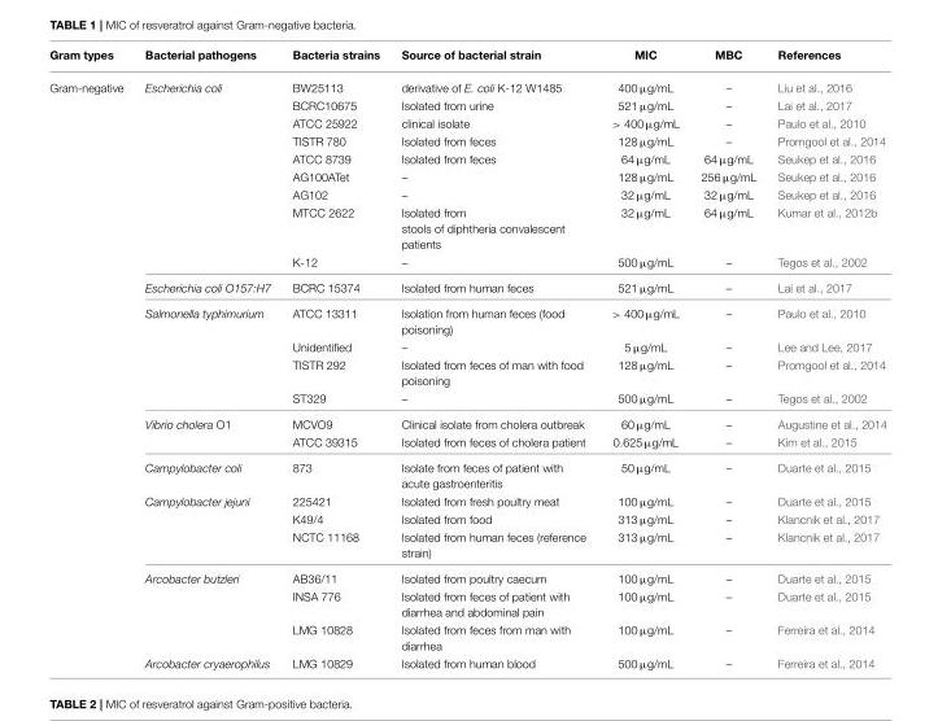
<table><thead><tr><td>Gram types</td><td>Bacterial pathogens</td><td>Bacteria strains</td><td>Source of bacterial strain</td><td>MIC</td><td>MBC</td><td>References</td></tr></thead><tbody><tr><td rowspan="24">Gram-negative</td><td>Escherichia coli</td><td>BW25113</td><td>derivative of E. coli K-12 W1485</td><td>400 µg/mL</td><td>–</td><td>Liu et al., 2016</td></tr><tr><td></td><td>BCRC10675</td><td>Isolated from urine</td><td>521 µg/mL</td><td>–</td><td>Lai et al., 2017</td></tr><tr><td></td><td>ATCC 25922</td><td>clinical isolate</td><td>&gt; 400 µg/mL</td><td>–</td><td>Paulo et al., 2010</td></tr><tr><td></td><td>TISTR 780</td><td>Isolated from feces</td><td>128 µg/mL</td><td>–</td><td>Promgool et al., 2014</td></tr><tr><td></td><td>ATCC 8739</td><td>Isolated from feces</td><td>64 µg/mL</td><td>64 µg/mL</td><td>Seukep et al., 2016</td></tr><tr><td></td><td>AG100ATet</td><td>–</td><td>128 µg/mL</td><td>256 µg/mL</td><td>Seukep et al., 2016</td></tr><tr><td></td><td>AG102</td><td>–</td><td>32 µg/mL</td><td>32 µg/mL</td><td>Seukep et al., 2016</td></tr><tr><td></td><td>MTCC 2622</td><td>Isolated from stools of diphtheria convalescent patients</td><td>32 µg/mL</td><td>64 µg/mL</td><td>Kumar et al., 2012b</td></tr><tr><td></td><td>K-12</td><td>–</td><td>500 µg/mL</td><td>–</td><td>Tegos et al., 2002</td></tr><tr><td>Escherichia coli O157:H7</td><td>BCRC 15374</td><td>Isolated from human feces</td><td>521 µg/mL</td><td>–</td><td>Lai et al., 2017</td></tr><tr><td>Salmonella typhimurium</td><td>ATCC 13311</td><td>Isolation from human feces (food poisoning)</td><td>&gt; 400 µg/mL</td><td>–</td><td>Paulo et al., 2010</td></tr><tr><td></td><td>Unidentified</td><td>–</td><td>5 µg/mL</td><td>–</td><td>Lee and Lee, 2017</td></tr><tr><td></td><td>TISTR 292</td><td>Isolated from feces of man with food poisoning</td><td>128 µg/mL</td><td>–</td><td>Promgool et al., 2014</td></tr><tr><td></td><td>ST329</td><td>–</td><td>500 µg/mL</td><td>–</td><td>Tegos et al., 2002</td></tr><tr><td>Vibrio cholera O1</td><td>MCVO9</td><td>Clinical isolate from cholera outbreak</td><td>60 µg/mL</td><td>–</td><td>Augustine et al., 2014</td></tr><tr><td></td><td>ATCC 39315</td><td>Isolated from feces of cholera patient</td><td>0.625 µg/mL</td><td>–</td><td>Kim et al., 2015</td></tr><tr><td>Campylobacter coli</td><td>873</td><td>Isolate from feces of patient with acute gastroenteritis</td><td>50 µg/mL</td><td>–</td><td>Duarte et al., 2015</td></tr><tr><td>Campylobacter jejuni</td><td>225421</td><td>Isolated from fresh poultry meat</td><td>100 µg/mL</td><td>–</td><td>Duarte et al., 2015</td></tr><tr><td></td><td>K49/4</td><td>Isolated from food</td><td>313 µg/mL</td><td>–</td><td>Klancnik et al., 2017</td></tr><tr><td></td><td>NCTC 11168</td><td>Isolated from human feces (reference strain)</td><td>313 µg/mL</td><td>–</td><td>Klancnik et al., 2017</td></tr><tr><td>Arcobacter butzleri</td><td>AB36/11</td><td>Isolated from poultry caecum</td><td>100 µg/mL</td><td>–</td><td>Duarte et al., 2015</td></tr><tr><td></td><td>INSA 776</td><td>Isolated from feces of patient with diarrhea and abdominal pain</td><td>100 µg/mL</td><td>–</td><td>Duarte et al., 2015</td></tr><tr><td></td><td>LMG 10828</td><td>Isolated from feces from man with diarrhea</td><td>100 µg/mL</td><td>–</td><td>Ferreira et al., 2014</td></tr><tr><td>Arcobacter cryaerophilus</td><td>LMG 10829</td><td>Isolated from human blood</td><td>500 µg/mL</td><td>–</td><td>Ferreira et al., 2014</td></tr></tbody></table>